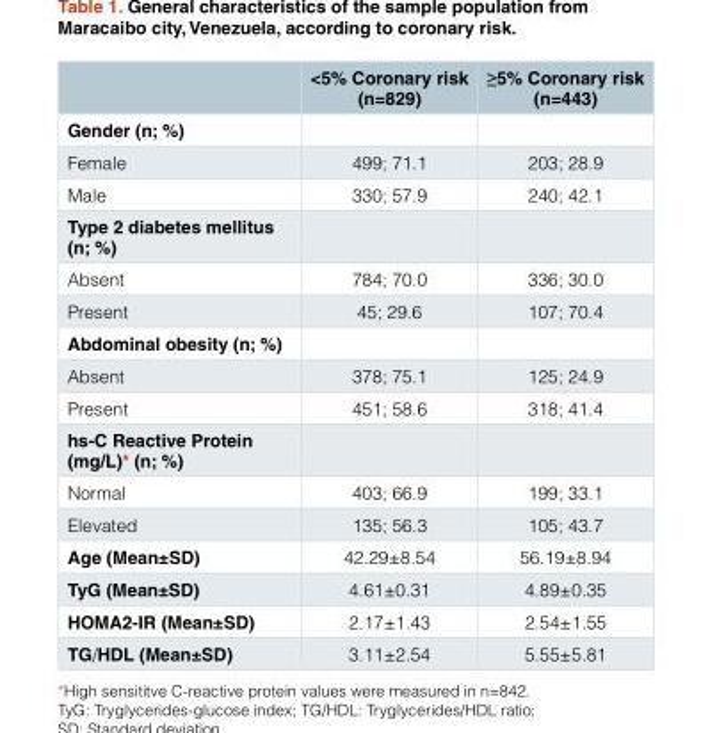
<table><thead><tr><td></td><td>&lt;5% Coronary risk (n=829)</td><td>≥5% Coronary risk (n=443)</td></tr></thead><tbody><tr><td colspan="3">Gender (n; %)</td></tr><tr><td>Female</td><td>499; 71.1</td><td>203; 28.9</td></tr><tr><td>Male</td><td>330; 57.9</td><td>240; 42.1</td></tr><tr><td colspan="3">Type 2 diabetes mellitus (n; %)</td></tr><tr><td>Absent</td><td>784; 70.0</td><td>336; 30.0</td></tr><tr><td>Present</td><td>45; 29.6</td><td>107; 70.4</td></tr><tr><td colspan="3">Abdominal obesity (n; %)</td></tr><tr><td>Absent</td><td>378; 75.1</td><td>125; 24.9</td></tr><tr><td>Present</td><td>451; 58.6</td><td>318; 41.4</td></tr><tr><td colspan="3">hs-C Reactive Protein (mg/L)* (n; %)</td></tr><tr><td>Normal</td><td>403; 66.9</td><td>199; 33.1</td></tr><tr><td>Elevated</td><td>135; 56.3</td><td>105; 43.7</td></tr><tr><td>Age (Mean±SD)</td><td>42.29±8.54</td><td>56.19±8.94</td></tr><tr><td>TyG (Mean±SD)</td><td>4.61±0.31</td><td>4.89±0.35</td></tr><tr><td>HOMA2-IR (Mean±SD)</td><td>2.17±1.43</td><td>2.54±1.55</td></tr><tr><td>TG/HDL (Mean±SD)</td><td>3.11±2.54</td><td>5.55±5.81</td></tr></tbody></table>